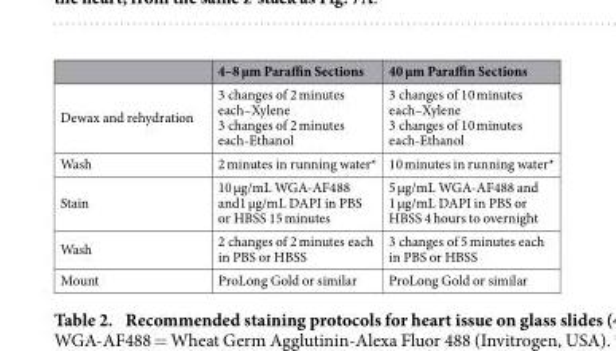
<table><thead><tr><td></td><td>4–8 μm Paraffin Sections</td><td>40 μm Paraffin Sections</td></tr></thead><tbody><tr><td>Dewax and rehydration</td><td>3 changes of 2 minutes each–Xylene 3 changes of 2 minutes each-Ethanol</td><td>3 changes of 10 minutes each–Xylene 3 changes of 10 minutes each-Ethanol</td></tr><tr><td>Wash</td><td>2 minutes in running water*</td><td>10 minutes in running water*</td></tr><tr><td>Stain</td><td>10 μg/mL WGA-AF488 and1 μg/mL DAPI in PBS or HBSS 15 minutes</td><td>5 μg/mL WGA-AF488 and 1 μg/mL DAPI in PBS or HBSS 4 hours to overnight</td></tr><tr><td>Wash</td><td>2 changes of 2 minutes each in PBS or HBSS</td><td>3 changes of 5 minutes each in PBS or HBSS</td></tr><tr><td>Mount</td><td>ProLong Gold or similar</td><td>ProLong Gold or similar</td></tr></tbody></table>